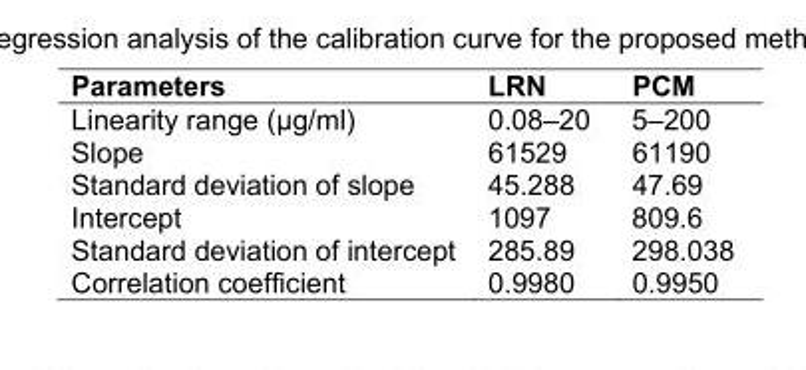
<table><thead><tr><td>Parameters</td><td>LRN</td><td>PCM</td></tr></thead><tbody><tr><td>Linearity range (µg/ml)</td><td>0.08–20</td><td>5–200</td></tr><tr><td>Slope</td><td>61529</td><td>61190</td></tr><tr><td>Standard deviation of slope</td><td>45.288</td><td>47.69</td></tr><tr><td>Intercept</td><td>1097</td><td>809.6</td></tr><tr><td>Standard deviation of intercept</td><td>285.89</td><td>298.038</td></tr><tr><td>Correlation coefficient</td><td>0.9980</td><td>0.9950</td></tr></tbody></table>